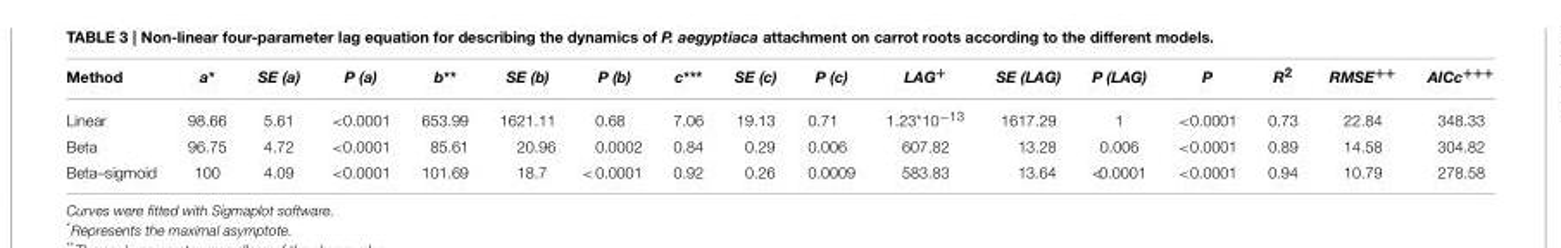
<table><thead><tr><td>Method</td><td>a*</td><td>SE (a)</td><td>P (a)</td><td>b**</td><td>SE (b)</td><td>P (b)</td><td>c***</td><td>SE (c)</td><td>P (c)</td><td>LAG<sup>+</sup></td><td>SE (LAG)</td><td>P (LAG)</td><td>P</td><td>R<sup>2</sup></td><td>RMSE<sup>++</sup></td><td>AICc<sup>+++</sup></td></tr></thead><tbody><tr><td>Linear</td><td>98.66</td><td>5.61</td><td>&lt;0.0001</td><td>653.99</td><td>1621.11</td><td>0.68</td><td>7.06</td><td>19.13</td><td>0.71</td><td>1.23*10<sup>−13</sup></td><td>1617.29</td><td>1</td><td>&lt;0.0001</td><td>0.73</td><td>22.84</td><td>348.33</td></tr><tr><td>Beta</td><td>96.75</td><td>4.72</td><td>&lt;0.0001</td><td>85.61</td><td>20.96</td><td>0.0002</td><td>0.84</td><td>0.29</td><td>0.006</td><td>607.82</td><td>13.28</td><td>0.006</td><td>&lt;0.0001</td><td>0.89</td><td>14.58</td><td>304.82</td></tr><tr><td>Beta–sigmoid</td><td>100</td><td>4.09</td><td>&lt;0.0001</td><td>101.69</td><td>18.7</td><td>&lt;0.0001</td><td>0.92</td><td>0.26</td><td>0.0009</td><td>583.83</td><td>13.64</td><td>&lt;0.0001</td><td>&lt;0.0001</td><td>0.94</td><td>10.79</td><td>278.58</td></tr></tbody></table>